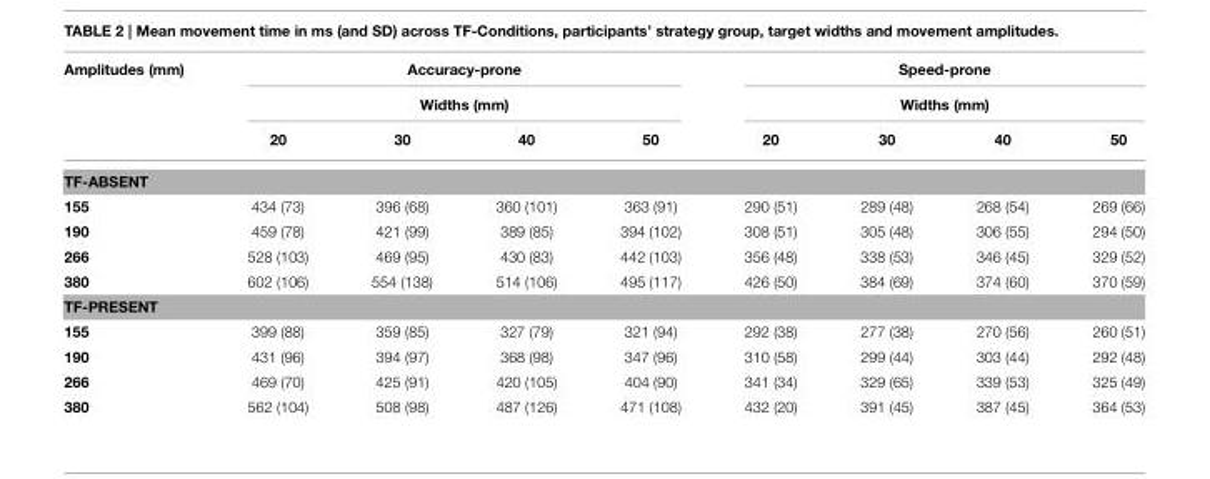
<table><thead><tr><td rowspan="3">Amplitudes (mm)</td><td rowspan="2" colspan="4">Accuracy-prone Widths (mm)</td><td rowspan="2" colspan="4">Speed-prone Widths (mm)</td></tr><tr></tr><tr><td>20</td><td>30</td><td>40</td><td>50</td><td>20</td><td>30</td><td>40</td><td>50</td></tr></thead><tbody><tr><td colspan="9">TF-ABSENT</td></tr><tr><td>155</td><td>434 (73)</td><td>396 (68)</td><td>360 (101)</td><td>363 (91)</td><td>290 (51)</td><td>289 (48)</td><td>268 (54)</td><td>269 (66)</td></tr><tr><td>190</td><td>459 (78)</td><td>421 (99)</td><td>389 (85)</td><td>394 (102)</td><td>308 (51)</td><td>305 (48)</td><td>306 (55)</td><td>294 (50)</td></tr><tr><td>266</td><td>528 (103)</td><td>469 (95)</td><td>430 (83)</td><td>442 (103)</td><td>356 (48)</td><td>338 (53)</td><td>346 (45)</td><td>329 (52)</td></tr><tr><td>380</td><td>602 (106)</td><td>554 (138)</td><td>514 (106)</td><td>495 (117)</td><td>426 (50)</td><td>384 (69)</td><td>374 (60)</td><td>370 (59)</td></tr><tr><td colspan="9">TF-PRESENT</td></tr><tr><td>155</td><td>399 (88)</td><td>359 (85)</td><td>327 (79)</td><td>321 (94)</td><td>292 (38)</td><td>277 (38)</td><td>270 (56)</td><td>260 (51)</td></tr><tr><td>190</td><td>431 (96)</td><td>394 (97)</td><td>368 (98)</td><td>347 (96)</td><td>310 (58)</td><td>299 (44)</td><td>303 (44)</td><td>292 (48)</td></tr><tr><td>266</td><td>469 (70)</td><td>425 (91)</td><td>420 (105)</td><td>404 (90)</td><td>341 (34)</td><td>329 (65)</td><td>339 (53)</td><td>325 (49)</td></tr><tr><td>380</td><td>562 (104)</td><td>508 (98)</td><td>487 (126)</td><td>471 (108)</td><td>432 (20)</td><td>391 (45)</td><td>387 (45)</td><td>364 (53)</td></tr></tbody></table>